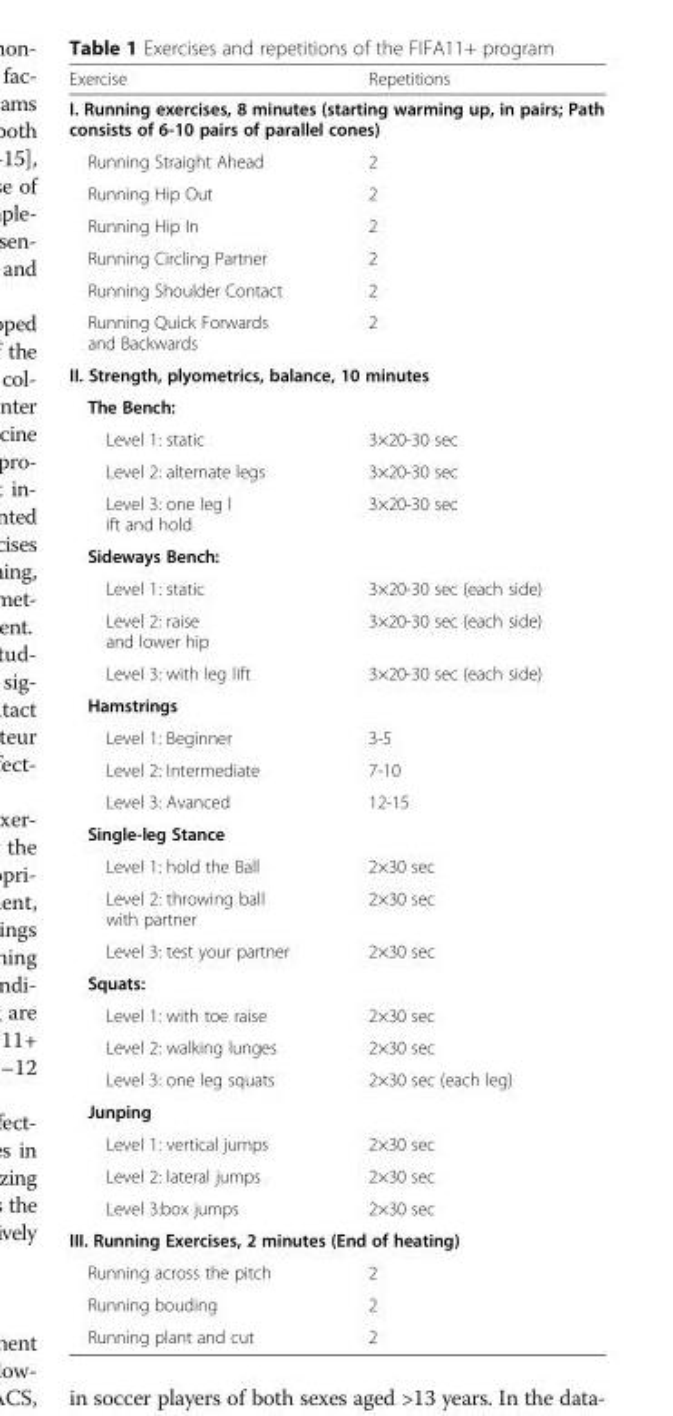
<table><thead><tr><td>Exercise</td><td>Repetitions</td></tr></thead><tbody><tr><td colspan="2">I. Running exercises, 8 minutes (starting warming up, in pairs; Path consists of 6-10 pairs of parallel cones)</td></tr><tr><td>Running Straight Ahead</td><td>2</td></tr><tr><td>Running Hip Out</td><td>2</td></tr><tr><td>Running Hip In</td><td>2</td></tr><tr><td>Running Circling Partner</td><td>2</td></tr><tr><td>Running Shoulder Contact</td><td>2</td></tr><tr><td>Running Quick Forwards and Backwards</td><td>2</td></tr><tr><td colspan="2">II. Strength, plyometrics, balance, 10 minutes</td></tr><tr><td colspan="2">The Bench:</td></tr><tr><td>Level 1: static</td><td>3×20-30 sec</td></tr><tr><td>Level 2: alternate legs</td><td>3×20-30 sec</td></tr><tr><td>Level 3: one leg l ift and hold</td><td>3×20-30 sec</td></tr><tr><td colspan="2">Sideways Bench:</td></tr><tr><td>Level 1: static</td><td>3×20-30 sec (each side)</td></tr><tr><td>Level 2: raise and lower hip</td><td>3×20-30 sec (each side)</td></tr><tr><td>Level 3: with leg lift</td><td>3×20-30 sec (each side)</td></tr><tr><td colspan="2">Hamstrings</td></tr><tr><td>Level 1: Beginner</td><td>3-5</td></tr><tr><td>Level 2: Intermediate</td><td>7-10</td></tr><tr><td>Level 3: Avanced</td><td>12-15</td></tr><tr><td colspan="2">Single-leg Stance</td></tr><tr><td>Level 1: hold the Ball</td><td>2×30 sec</td></tr><tr><td>Level 2: throwing ball with partner</td><td>2×30 sec</td></tr><tr><td>Level 3: test your partner</td><td>2×30 sec</td></tr><tr><td colspan="2">Squats:</td></tr><tr><td>Level 1: with toe raise</td><td>2×30 sec</td></tr><tr><td>Level 2: walking lunges</td><td>2×30 sec</td></tr><tr><td>Level 3: one leg squats</td><td>2×30 sec (each leg)</td></tr><tr><td colspan="2">Junping</td></tr><tr><td>Level 1: vertical jumps</td><td>2×30 sec</td></tr><tr><td>Level 2: lateral jumps</td><td>2×30 sec</td></tr><tr><td>Level 3:box jumps</td><td>2×30 sec</td></tr><tr><td colspan="2">III. Running Exercises, 2 minutes (End of heating)</td></tr><tr><td>Running across the pitch</td><td>2</td></tr><tr><td>Running bouding</td><td>2</td></tr><tr><td>Running plant and cut</td><td>2</td></tr></tbody></table>